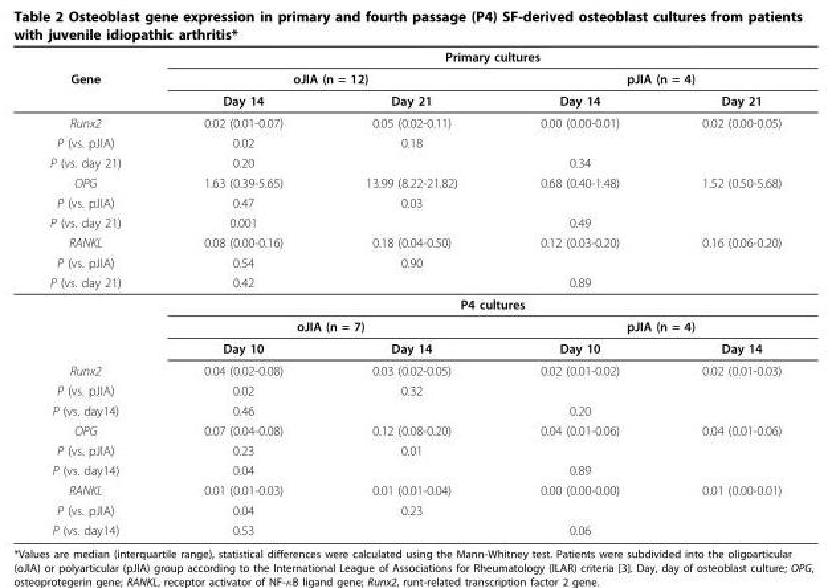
<table><thead><tr><td rowspan="3">Gene</td><td colspan="4">Primary cultures</td></tr><tr><td colspan="2">oJIA (n = 12)</td><td colspan="2">pJIA (n = 4)</td></tr><tr><td>Day 14</td><td>Day 21</td><td>Day 14</td><td>Day 21</td></tr></thead><tbody><tr><td>Runx2</td><td>0.02 (0.01-0.07)</td><td>0.05 (0.02-0.11)</td><td>0.00 (0.00-0.01)</td><td>0.02 (0.00-0.05)</td></tr><tr><td>P (vs. pJIA)</td><td>0.02</td><td>0.18</td><td></td><td></td></tr><tr><td>P (vs. day 21)</td><td>0.20</td><td></td><td>0.34</td><td></td></tr><tr><td>OPG</td><td>1.63 (0.39-5.65)</td><td>13.99 (8.22-21.82)</td><td>0.68 (0.40-1.48)</td><td>1.52 (0.50-5.68)</td></tr><tr><td>P (vs. pJIA)</td><td>0.47</td><td>0.03</td><td></td><td></td></tr><tr><td>P (vs. day 21)</td><td>0.001</td><td></td><td>0.49</td><td></td></tr><tr><td>RANKL</td><td>0.08 (0.00-0.16)</td><td>0.18 (0.04-0.50)</td><td>0.12 (0.03-0.20)</td><td>0.16 (0.06-0.20)</td></tr><tr><td>P (vs. pJIA)</td><td>0.54</td><td>0.90</td><td></td><td></td></tr><tr><td rowspan="4">P (vs. day 21)</td><td>0.42</td><td></td><td>0.89</td><td></td></tr><tr><td colspan="4">P4 cultures</td></tr><tr><td colspan="2">oJIA (n = 7)</td><td colspan="2">pJIA (n = 4)</td></tr><tr><td>Day 10</td><td>Day 14</td><td>Day 10</td><td>Day 14</td></tr><tr><td>Runx2</td><td>0.04 (0.02-0.08)</td><td>0.03 (0.02-0.05)</td><td>0.02 (0.01-0.02)</td><td>0.02 (0.01-0.03)</td></tr><tr><td>P (vs. pJIA)</td><td>0.02</td><td>0.32</td><td></td><td></td></tr><tr><td>P (vs. day14)</td><td>0.46</td><td></td><td>0.20</td><td></td></tr><tr><td>OPG</td><td>0.07 (0.04-0.08)</td><td>0.12 (0.08-0.20)</td><td>0.04 (0.01-0.06)</td><td>0.04 (0.01-0.06)</td></tr><tr><td>P (vs. pJIA)</td><td>0.23</td><td>0.01</td><td></td><td></td></tr><tr><td>P (vs. day14)</td><td>0.04</td><td></td><td>0.89</td><td></td></tr><tr><td>RANKL</td><td>0.01 (0.01-0.03)</td><td>0.01 (0.01-0.04)</td><td>0.00 (0.00-0.00)</td><td>0.01 (0.00-0.01)</td></tr><tr><td>P (vs. pJIA)</td><td>0.04</td><td>0.23</td><td></td><td></td></tr><tr><td>P (vs. day14)</td><td>0.53</td><td></td><td>0.06</td><td></td></tr></tbody></table>